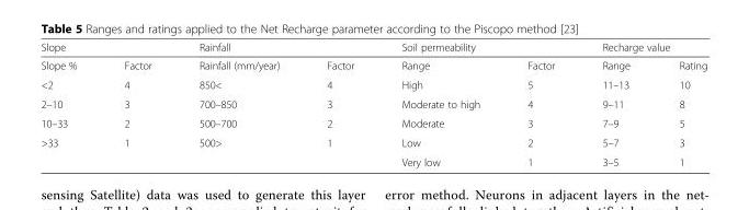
<table><thead><tr><td colspan="2">Slope</td><td colspan="2">Rainfall</td><td colspan="2">Soil permeability</td><td colspan="2">Recharge value</td></tr><tr><td>Slope %</td><td>Factor</td><td>Rainfall (mm/year)</td><td>Factor</td><td>Range</td><td>Factor</td><td>Range</td><td>Rating</td></tr></thead><tbody><tr><td>&lt;2</td><td>4</td><td>850&lt;</td><td>4</td><td>High</td><td>5</td><td>11–13</td><td>10</td></tr><tr><td>2–10</td><td>3</td><td>700–850</td><td>3</td><td>Moderate to high</td><td>4</td><td>9–11</td><td>8</td></tr><tr><td>10–33</td><td>2</td><td>500–700</td><td>2</td><td>Moderate</td><td>3</td><td>7–9</td><td>5</td></tr><tr><td rowspan="2">&gt;33</td><td>1</td><td>500&gt;</td><td>1</td><td>Low</td><td>2</td><td>5–7</td><td>3</td></tr><tr><td></td><td></td><td></td><td>Very low</td><td>1</td><td>3–5</td><td>1</td></tr></tbody></table>